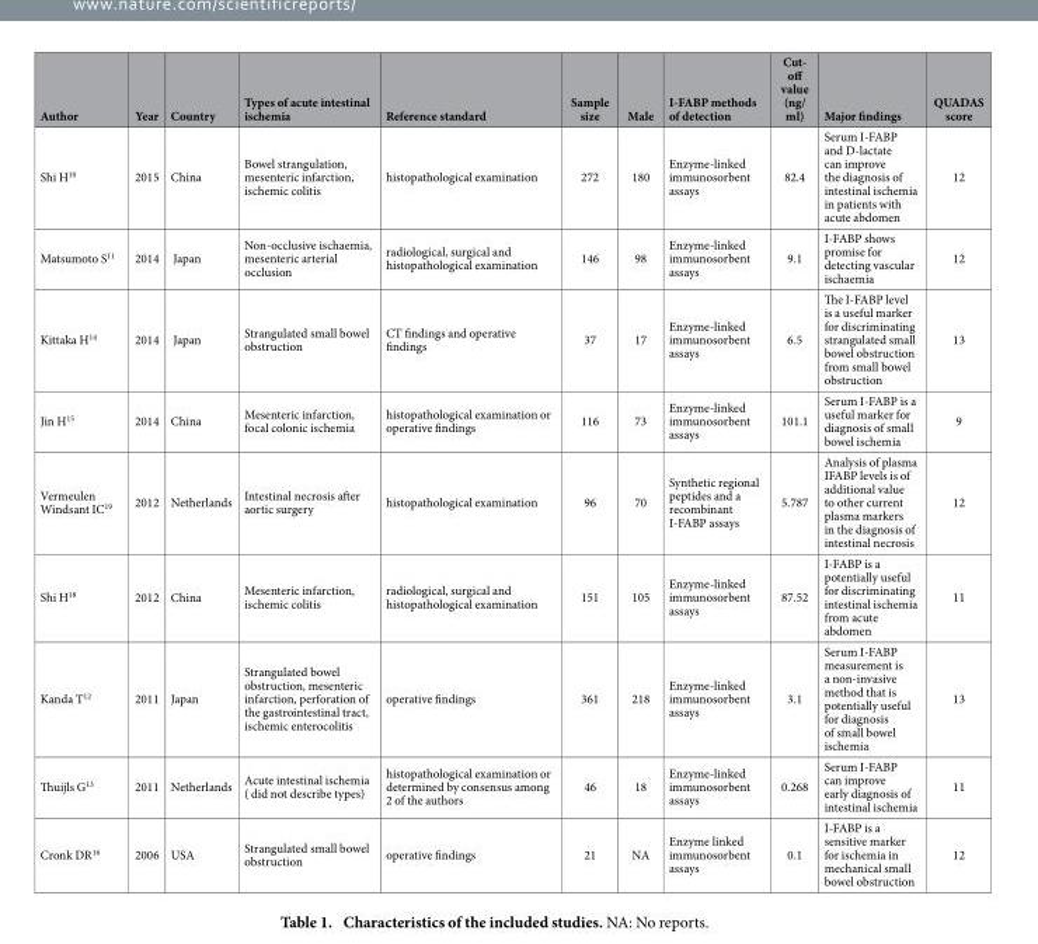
<table><thead><tr><td>Author</td><td>Year</td><td>Country</td><td>Types of acute intestinal ischemia</td><td>Reference standard</td><td>Sample size</td><td>Male</td><td>I-FABP methods of detection</td><td>Cut- off value (ng/ ml)</td><td>Major findings</td><td>QUADAS score</td></tr></thead><tbody><tr><td>Shi H<sup>10</sup></td><td>2015</td><td>China</td><td>Bowel strangulation, mesenteric infarction, ischemic colitis</td><td>histopathological examination</td><td>272</td><td>180</td><td>Enzyme-linked immunosorbent assays</td><td>82.4</td><td>Serum I-FABP and D-lactate can improve the diagnosis of intestinal ischemia in patients with acute abdomen</td><td>12</td></tr><tr><td>Matsumoto S<sup>11</sup></td><td>2014</td><td>Japan</td><td>Non-occlusive ischaemia, mesenteric arterial occlusion</td><td>radiological, surgical and histopathological examination</td><td>146</td><td>98</td><td>Enzyme-linked immunosorbent assays</td><td>9.1</td><td>I-FABP shows promise for detecting vascular ischaemia</td><td>12</td></tr><tr><td>Kittaka H<sup>14</sup></td><td>2014</td><td>Japan</td><td>Strangulated small bowel obstruction</td><td>CT findings and operative findings</td><td>37</td><td>17</td><td>Enzyme-linked immunosorbent assays</td><td>6.5</td><td>The I-FABP level is a useful marker for discriminating strangulated small bowel obstruction from small bowel obstruction</td><td>13</td></tr><tr><td>Jin H<sup>15</sup></td><td>2014</td><td>China</td><td>Mesenteric infarction, focal colonic ischemia</td><td>histopathological examination or operative findings</td><td>116</td><td>73</td><td>Enzyme-linked immunosorbent assays</td><td>101.1</td><td>Serum I-FABP is a useful marker for diagnosis of small bowel ischemia</td><td>9</td></tr><tr><td>Vermeulen Windsant IC<sup>19</sup></td><td>2012</td><td>Netherlands</td><td>Intestinal necrosis after aortic surgery</td><td>histopathological examination</td><td>96</td><td>70</td><td>Synthetic regional peptides and a recombinant I-FABP assays</td><td>5.787</td><td>Analysis of plasma IFABP levels is of additional value to other current plasma markers in the diagnosis of intestinal necrosis</td><td>12</td></tr><tr><td>Shi H<sup>18</sup></td><td>2012</td><td>China</td><td>Mesenteric infarction, ischemic colitis</td><td>radiological, surgical and histopathological examination</td><td>151</td><td>105</td><td>Enzyme-linked immunosorbent assays</td><td>87.52</td><td>I-FABP is a potentially useful for discriminating intestinal ischemia from acute abdomen</td><td>11</td></tr><tr><td>Kanda T<sup>12</sup></td><td>2011</td><td>Japan</td><td>Strangulated bowel obstruction, mesenteric infarction, perforation of the gastrointestinal tract, ischemic enterocolitis</td><td>operative findings</td><td>361</td><td>218</td><td>Enzyme-linked immunosorbent assays</td><td>3.1</td><td>Serum I-FABP measurement is a non-invasive method that is potentially useful for diagnosis of small bowel ischemia</td><td>13</td></tr><tr><td>Thuijls G<sup>13</sup></td><td>2011</td><td>Netherlands</td><td>Acute intestinal ischemia ( did not describe types)</td><td>histopathological examination or determined by consensus among 2 of the authors</td><td>46</td><td>18</td><td>Enzyme-linked immunosorbent assays</td><td>0.268</td><td>Serum I-FABP can improve early diagnosis of intestinal ischemia</td><td>11</td></tr><tr><td>Cronk DR<sup>16</sup></td><td>2006</td><td>USA</td><td>Strangulated small bowel obstruction</td><td>operative findings</td><td>21</td><td>NA</td><td>Enzyme linked immunosorbent assays</td><td>0.1</td><td>I-FABP is a sensitive marker for ischemia in mechanical small bowel obstruction</td><td>12</td></tr></tbody></table>